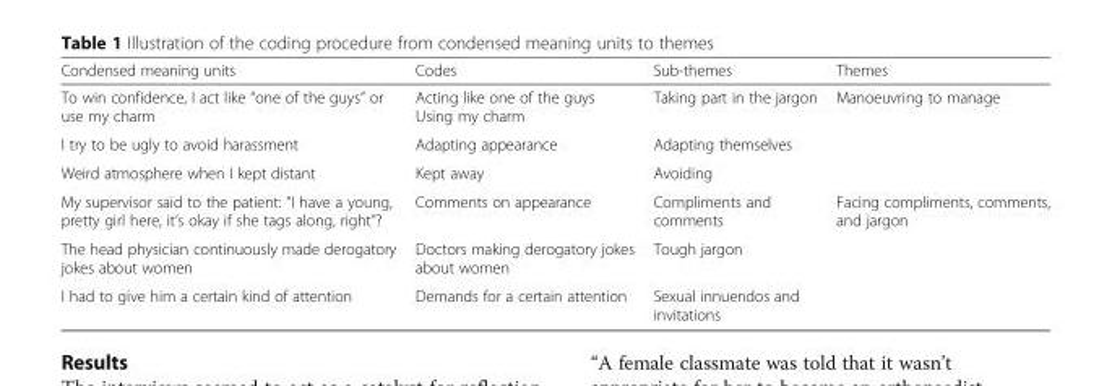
<table><thead><tr><td>Condensed meaning units</td><td>Codes</td><td>Sub-themes</td><td>Themes</td></tr></thead><tbody><tr><td>To win confidence, I act like “one of the guys” or use my charm</td><td>Acting like one of the guys Using my charm</td><td>Taking part in the jargon</td><td>Manoeuvring to manage</td></tr><tr><td>I try to be ugly to avoid harassment</td><td>Adapting appearance</td><td>Adapting themselves</td><td></td></tr><tr><td>Weird atmosphere when I kept distant</td><td>Kept away</td><td>Avoiding</td><td></td></tr><tr><td>My supervisor said to the patient: “I have a young, pretty girl here, it’s okay if she tags along, right”?</td><td>Comments on appearance</td><td>Compliments and comments</td><td>Facing compliments, comments, and jargon</td></tr><tr><td>The head physician continuously made derogatory jokes about women</td><td>Doctors making derogatory jokes about women</td><td>Tough jargon</td><td></td></tr><tr><td>I had to give him a certain kind of attention</td><td>Demands for a certain attention</td><td>Sexual innuendos and invitations</td><td></td></tr></tbody></table>